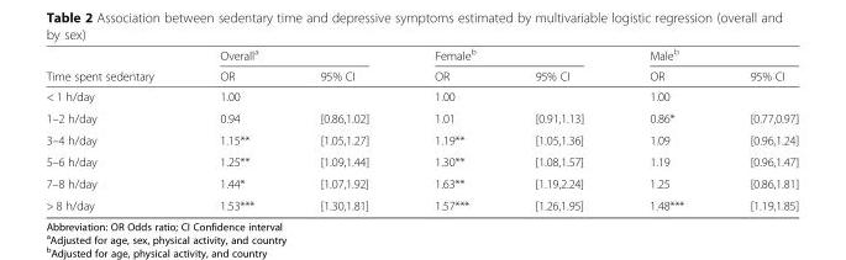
<table><thead><tr><td rowspan="2">Time spent sedentary</td><td colspan="2">Overall<sup>a</sup></td><td colspan="2">Female<sup>b</sup></td><td colspan="2">Male<sup>b</sup></td></tr><tr><td>OR</td><td>95% CI</td><td>OR</td><td>95% CI</td><td>OR</td><td>95% CI</td></tr></thead><tbody><tr><td>&lt; 1 h/day</td><td>1.00</td><td></td><td>1.00</td><td></td><td>1.00</td><td></td></tr><tr><td>1–2 h/day</td><td>0.94</td><td>[0.86,1.02]</td><td>1.01</td><td>[0.91,1.13]</td><td>0.86*</td><td>[0.77,0.97]</td></tr><tr><td>3–4 h/day</td><td>1.15**</td><td>[1.05,1.27]</td><td>1.19**</td><td>[1.05,1.36]</td><td>1.09</td><td>[0.96,1.24]</td></tr><tr><td>5–6 h/day</td><td>1.25**</td><td>[1.09,1.44]</td><td>1.30**</td><td>[1.08,1.57]</td><td>1.19</td><td>[0.96,1.47]</td></tr><tr><td>7–8 h/day</td><td>1.44*</td><td>[1.07,1.92]</td><td>1.63**</td><td>[1.19,2.24]</td><td>1.25</td><td>[0.86,1.81]</td></tr><tr><td>&gt; 8 h/day</td><td>1.53***</td><td>[1.30,1.81]</td><td>1.57***</td><td>[1.26,1.95]</td><td>1.48***</td><td>[1.19,1.85]</td></tr></tbody></table>